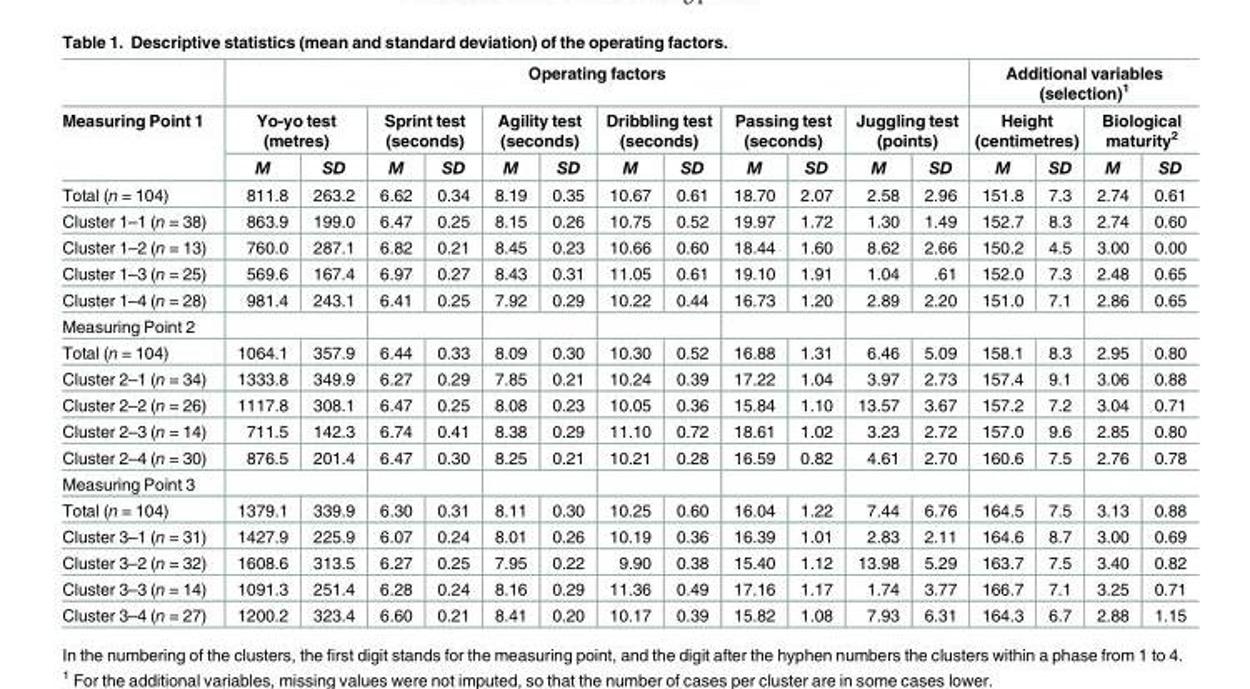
<table><thead><tr><td rowspan="3">Measuring Point 1</td><td colspan="12">Operating factors</td><td colspan="4">Additional variables (selection)<sup>1</sup></td></tr><tr><td colspan="2">Yo-yo test (metres)</td><td colspan="2">Sprint test (seconds)</td><td colspan="2">Agility test (seconds)</td><td colspan="2">Dribbling test (seconds)</td><td colspan="2">Passing test (seconds)</td><td colspan="2">Juggling test (points)</td><td colspan="2">Height (centimetres)</td><td colspan="2">Biological maturity<sup>2</sup></td></tr><tr><td>M</td><td>SD</td><td>M</td><td>SD</td><td>M</td><td>SD</td><td>M</td><td>SD</td><td>M</td><td>SD</td><td>M</td><td>SD</td><td>M</td><td>SD</td><td>M</td><td>SD</td></tr></thead><tbody><tr><td>Total (n = 104)</td><td>811.8</td><td>263.2</td><td>6.62</td><td>0.34</td><td>8.19</td><td>0.35</td><td>10.67</td><td>0.61</td><td>18.70</td><td>2.07</td><td>2.58</td><td>2.96</td><td>151.8</td><td>7.3</td><td>2.74</td><td>0.61</td></tr><tr><td>Cluster 1–1 (n = 38)</td><td>863.9</td><td>199.0</td><td>6.47</td><td>0.25</td><td>8.15</td><td>0.26</td><td>10.75</td><td>0.52</td><td>19.97</td><td>1.72</td><td>1.30</td><td>1.49</td><td>152.7</td><td>8.3</td><td>2.74</td><td>0.60</td></tr><tr><td>Cluster 1–2 (n = 13)</td><td>760.0</td><td>287.1</td><td>6.82</td><td>0.21</td><td>8.45</td><td>0.23</td><td>10.66</td><td>0.60</td><td>18.44</td><td>1.60</td><td>8.62</td><td>2.66</td><td>150.2</td><td>4.5</td><td>3.00</td><td>0.00</td></tr><tr><td>Cluster 1–3 (n = 25)</td><td>569.6</td><td>167.4</td><td>6.97</td><td>0.27</td><td>8.43</td><td>0.31</td><td>11.05</td><td>0.61</td><td>19.10</td><td>1.91</td><td>1.04</td><td>.61</td><td>152.0</td><td>7.3</td><td>2.48</td><td>0.65</td></tr><tr><td>Cluster 1–4 (n = 28)</td><td>981.4</td><td>243.1</td><td>6.41</td><td>0.25</td><td>7.92</td><td>0.29</td><td>10.22</td><td>0.44</td><td>16.73</td><td>1.20</td><td>2.89</td><td>2.20</td><td>151.0</td><td>7.1</td><td>2.86</td><td>0.65</td></tr><tr><td colspan="17">Measuring Point 2</td></tr><tr><td>Total (n = 104)</td><td>1064.1</td><td>357.9</td><td>6.44</td><td>0.33</td><td>8.09</td><td>0.30</td><td>10.30</td><td>0.52</td><td>16.88</td><td>1.31</td><td>6.46</td><td>5.09</td><td>158.1</td><td>8.3</td><td>2.95</td><td>0.80</td></tr><tr><td>Cluster 2–1 (n = 34)</td><td>1333.8</td><td>349.9</td><td>6.27</td><td>0.29</td><td>7.85</td><td>0.21</td><td>10.24</td><td>0.39</td><td>17.22</td><td>1.04</td><td>3.97</td><td>2.73</td><td>157.4</td><td>9.1</td><td>3.06</td><td>0.88</td></tr><tr><td>Cluster 2–2 (n = 26)</td><td>1117.8</td><td>308.1</td><td>6.47</td><td>0.25</td><td>8.08</td><td>0.23</td><td>10.05</td><td>0.36</td><td>15.84</td><td>1.10</td><td>13.57</td><td>3.67</td><td>157.2</td><td>7.2</td><td>3.04</td><td>0.71</td></tr><tr><td>Cluster 2–3 (n = 14)</td><td>711.5</td><td>142.3</td><td>6.74</td><td>0.41</td><td>8.38</td><td>0.29</td><td>11.10</td><td>0.72</td><td>18.61</td><td>1.02</td><td>3.23</td><td>2.72</td><td>157.0</td><td>9.6</td><td>2.85</td><td>0.80</td></tr><tr><td>Cluster 2–4 (n = 30)</td><td>876.5</td><td>201.4</td><td>6.47</td><td>0.30</td><td>8.25</td><td>0.21</td><td>10.21</td><td>0.28</td><td>16.59</td><td>0.82</td><td>4.61</td><td>2.70</td><td>160.6</td><td>7.5</td><td>2.76</td><td>0.78</td></tr><tr><td colspan="17">Measuring Point 3</td></tr><tr><td>Total (n = 104)</td><td>1379.1</td><td>339.9</td><td>6.30</td><td>0.31</td><td>8.11</td><td>0.30</td><td>10.25</td><td>0.60</td><td>16.04</td><td>1.22</td><td>7.44</td><td>6.76</td><td>164.5</td><td>7.5</td><td>3.13</td><td>0.88</td></tr><tr><td>Cluster 3–1 (n = 31)</td><td>1427.9</td><td>225.9</td><td>6.07</td><td>0.24</td><td>8.01</td><td>0.26</td><td>10.19</td><td>0.36</td><td>16.39</td><td>1.01</td><td>2.83</td><td>2.11</td><td>164.6</td><td>8.7</td><td>3.00</td><td>0.69</td></tr><tr><td>Cluster 3–2 (n = 32)</td><td>1608.6</td><td>313.5</td><td>6.27</td><td>0.25</td><td>7.95</td><td>0.22</td><td>9.90</td><td>0.38</td><td>15.40</td><td>1.12</td><td>13.98</td><td>5.29</td><td>163.7</td><td>7.5</td><td>3.40</td><td>0.82</td></tr><tr><td>Cluster 3–3 (n = 14)</td><td>1091.3</td><td>251.4</td><td>6.28</td><td>0.24</td><td>8.16</td><td>0.29</td><td>11.36</td><td>0.49</td><td>17.16</td><td>1.17</td><td>1.74</td><td>3.77</td><td>166.7</td><td>7.1</td><td>3.25</td><td>0.71</td></tr><tr><td>Cluster 3–4 (n = 27)</td><td>1200.2</td><td>323.4</td><td>6.60</td><td>0.21</td><td>8.41</td><td>0.20</td><td>10.17</td><td>0.39</td><td>15.82</td><td>1.08</td><td>7.93</td><td>6.31</td><td>164.3</td><td>6.7</td><td>2.88</td><td>1.15</td></tr></tbody></table>